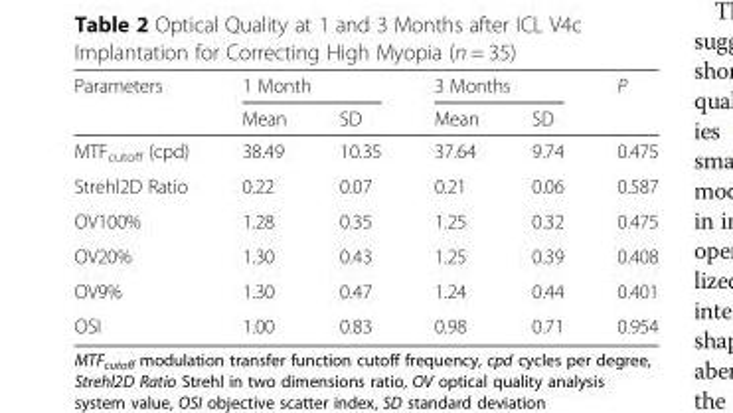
<table><thead><tr><td rowspan="2">Parameters</td><td colspan="2">1 Month</td><td colspan="2">3 Months</td><td rowspan="2">P</td></tr><tr><td>Mean</td><td>SD</td><td>Mean</td><td>SD</td></tr></thead><tbody><tr><td>MTF<sub>cutoff</sub> (cpd)</td><td>38.49</td><td>10.35</td><td>37.64</td><td>9.74</td><td>0.475</td></tr><tr><td>Strehl2D Ratio</td><td>0.22</td><td>0.07</td><td>0.21</td><td>0.06</td><td>0.587</td></tr><tr><td>OV100%</td><td>1.28</td><td>0.35</td><td>1.25</td><td>0.32</td><td>0.475</td></tr><tr><td>OV20%</td><td>1.30</td><td>0.43</td><td>1.25</td><td>0.39</td><td>0.408</td></tr><tr><td>OV9%</td><td>1.30</td><td>0.47</td><td>1.24</td><td>0.44</td><td>0.401</td></tr><tr><td>OSI</td><td>1.00</td><td>0.83</td><td>0.98</td><td>0.71</td><td>0.954</td></tr></tbody></table>